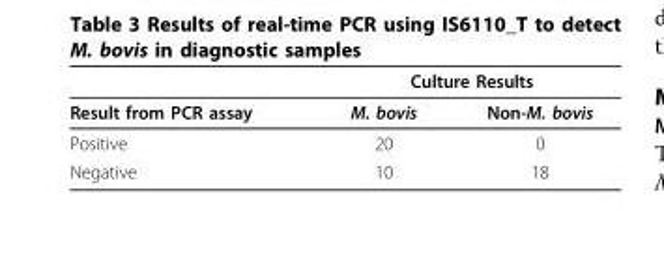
<table><thead><tr><td rowspan="2">Result from PCR assay</td><td colspan="2">Culture Results</td></tr><tr><td>M. bovis</td><td>Non-M. bovis</td></tr></thead><tbody><tr><td>Positive</td><td>20</td><td>0</td></tr><tr><td>Negative</td><td>10</td><td>18</td></tr></tbody></table>